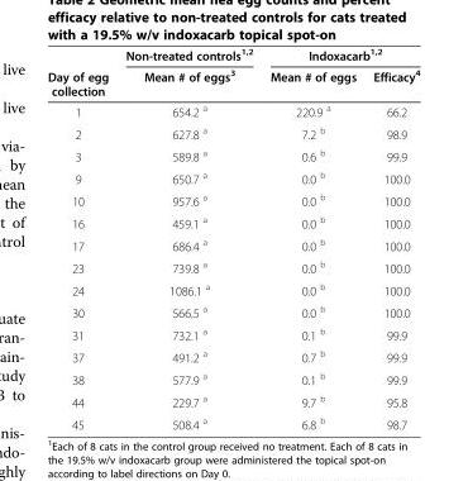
<table><thead><tr><td rowspan="2">Day of egg collection</td><td rowspan="2">Non-treated controls<sup>1,2</sup> Mean # of eggs<sup>3</sup></td><td colspan="2">Indoxacarb<sup>1,2</sup></td></tr><tr><td>Mean # of eggs</td><td>Efficacy<sup>4</sup></td></tr></thead><tbody><tr><td>1</td><td>654.2 <sup>a</sup></td><td>220.9 <sup>a</sup></td><td>66.2</td></tr><tr><td>2</td><td>627.8 <sup>a</sup></td><td>7.2 <sup>b</sup></td><td>98.9</td></tr><tr><td>3</td><td>589.8 <sup>a</sup></td><td>0.6 <sup>b</sup></td><td>99.9</td></tr><tr><td>9</td><td>650.7 <sup>a</sup></td><td>0.0 <sup>b</sup></td><td>100.0</td></tr><tr><td>10</td><td>957.6 <sup>a</sup></td><td>0.0 <sup>b</sup></td><td>100.0</td></tr><tr><td>16</td><td>459.1 <sup>a</sup></td><td>0.0 <sup>b</sup></td><td>100.0</td></tr><tr><td>17</td><td>686.4 <sup>a</sup></td><td>0.0 <sup>b</sup></td><td>100.0</td></tr><tr><td>23</td><td>739.8 <sup>a</sup></td><td>0.0 <sup>b</sup></td><td>100.0</td></tr><tr><td>24</td><td>1086.1 <sup>a</sup></td><td>0.0 <sup>b</sup></td><td>100.0</td></tr><tr><td>30</td><td>566.5 <sup>a</sup></td><td>0.0 <sup>b</sup></td><td>100.0</td></tr><tr><td>31</td><td>732.1 <sup>a</sup></td><td>0.1 <sup>b</sup></td><td>99.9</td></tr><tr><td>37</td><td>491.2 <sup>a</sup></td><td>0.7 <sup>b</sup></td><td>99.9</td></tr><tr><td>38</td><td>577.9 <sup>a</sup></td><td>0.1 <sup>b</sup></td><td>99.9</td></tr><tr><td>44</td><td>229.7 <sup>a</sup></td><td>9.7 <sup>b</sup></td><td>95.8</td></tr><tr><td>45</td><td>508.4 <sup>a</sup></td><td>6.8 <sup>b</sup></td><td>98.7</td></tr></tbody></table>